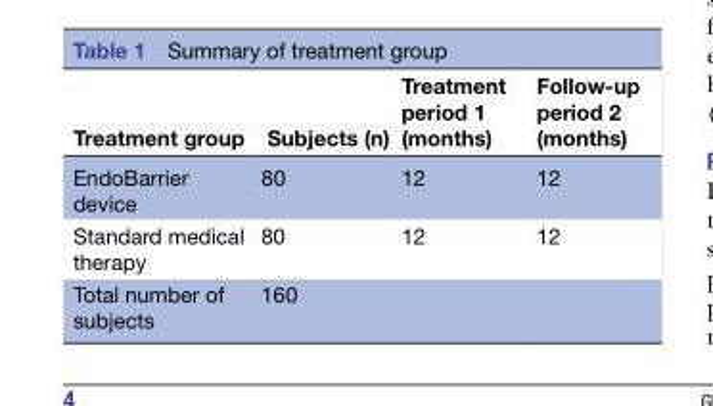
<table><thead><tr><td>Treatment group</td><td>Subjects (n)</td><td>Treatment period 1 (months)</td><td>Follow-up period 2 (months)</td></tr></thead><tbody><tr><td>EndoBarrier device</td><td>80</td><td>12</td><td>12</td></tr><tr><td>Standard medical therapy</td><td>80</td><td>12</td><td>12</td></tr><tr><td>Total number of subjects</td><td>160</td><td></td><td></td></tr></tbody></table>